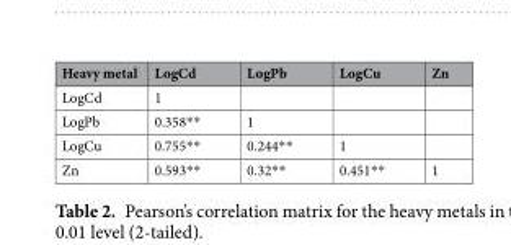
<table><thead><tr><td>Heavy metal</td><td>LogCd</td><td>LogPb</td><td>LogCu</td><td>Zn</td></tr></thead><tbody><tr><td>LogCd</td><td>1</td><td></td><td></td><td></td></tr><tr><td>LogPb</td><td>0.358**</td><td>1</td><td></td><td></td></tr><tr><td>LogCu</td><td>0.755**</td><td>0.244**</td><td>1</td><td></td></tr><tr><td>Zn</td><td>0.593**</td><td>0.32**</td><td>0.451**</td><td>1</td></tr></tbody></table>